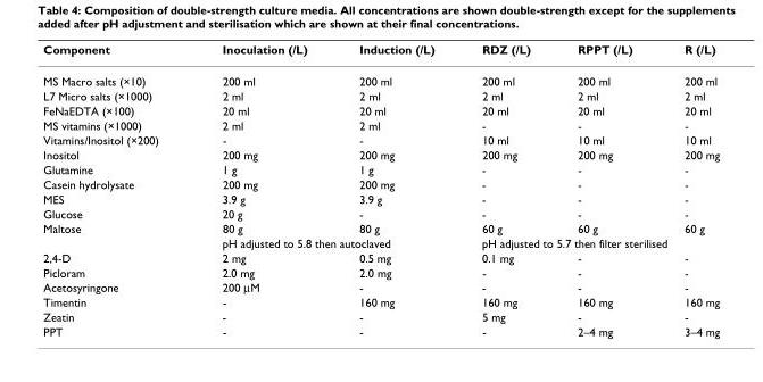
<table><thead><tr><td>Component</td><td>Inoculation (/L)</td><td>Induction (/L)</td><td>RDZ (/L)</td><td>RPPT (/L)</td><td>R (/L)</td></tr></thead><tbody><tr><td>MS Macro salts (×10)</td><td>200 ml</td><td>200 ml</td><td>200 ml</td><td>200 ml</td><td>200 ml</td></tr><tr><td>L7 Micro salts (×1000)</td><td>2 ml</td><td>2 ml</td><td>2 ml</td><td>2 ml</td><td>2 ml</td></tr><tr><td>FeNaEDTA (×100)</td><td>20 ml</td><td>20 ml</td><td>20 ml</td><td>20 ml</td><td>20 ml</td></tr><tr><td>MS vitamins (×1000)</td><td>2 ml</td><td>2 ml</td><td>-</td><td>-</td><td>-</td></tr><tr><td>Vitamins/Inositol (×200)</td><td>-</td><td>-</td><td>10 ml</td><td>10 ml</td><td>10 ml</td></tr><tr><td>Inositol</td><td>200 mg</td><td>200 mg</td><td>200 mg</td><td>200 mg</td><td>200 mg</td></tr><tr><td>Glutamine</td><td>1 g</td><td>1 g</td><td>-</td><td>-</td><td>-</td></tr><tr><td>Casein hydrolysate</td><td>200 mg</td><td>200 mg</td><td>-</td><td>-</td><td>-</td></tr><tr><td>MES</td><td>3.9 g</td><td>3.9 g</td><td>-</td><td>-</td><td>-</td></tr><tr><td>Glucose</td><td>20 g</td><td>-</td><td>-</td><td>-</td><td>-</td></tr><tr><td rowspan="2">Maltose</td><td>80 g</td><td>80 g</td><td>60 g</td><td>60 g</td><td>60 g</td></tr><tr><td colspan="2">pH adjusted to 5.8 then autoclaved</td><td colspan="3">pH adjusted to 5.7 then filter sterilised</td></tr><tr><td>2,4-D</td><td>2 mg</td><td>0.5 mg</td><td>0.1 mg</td><td>-</td><td>-</td></tr><tr><td>Picloram</td><td>2.0 mg</td><td>2.0 mg</td><td>-</td><td>-</td><td>-</td></tr><tr><td>Acetosyringone</td><td>200 µM</td><td>-</td><td>-</td><td>-</td><td>-</td></tr><tr><td>Timentin</td><td>-</td><td>160 mg</td><td>160 mg</td><td>160 mg</td><td>160 mg</td></tr><tr><td>Zeatin</td><td>-</td><td>-</td><td>5 mg</td><td>-</td><td>-</td></tr><tr><td>PPT</td><td>-</td><td>-</td><td>-</td><td>2–4 mg</td><td>3–4 mg</td></tr></tbody></table>